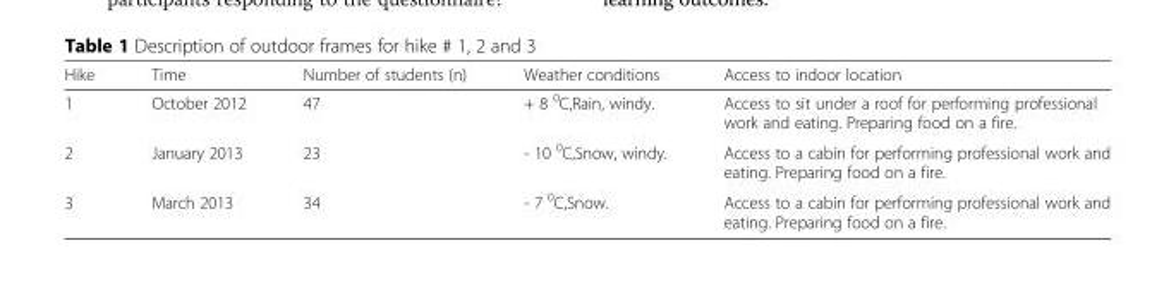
<table><thead><tr><td>Hike</td><td>Time</td><td>Number of students (n)</td><td>Weather conditions</td><td>Access to indoor location</td></tr></thead><tbody><tr><td>1</td><td>October 2012</td><td>47</td><td>+ 8 <sup>0</sup>C,Rain, windy.</td><td>Access to sit under a roof for performing professional work and eating. Preparing food on a fire.</td></tr><tr><td>2</td><td>January 2013</td><td>23</td><td>- 10 <sup>0</sup>C,Snow, windy.</td><td>Access to a cabin for performing professional work and eating. Preparing food on a fire.</td></tr><tr><td>3</td><td>March 2013</td><td>34</td><td>- 7 <sup>0</sup>C,Snow.</td><td>Access to a cabin for performing professional work and eating. Preparing food on a fire.</td></tr></tbody></table>